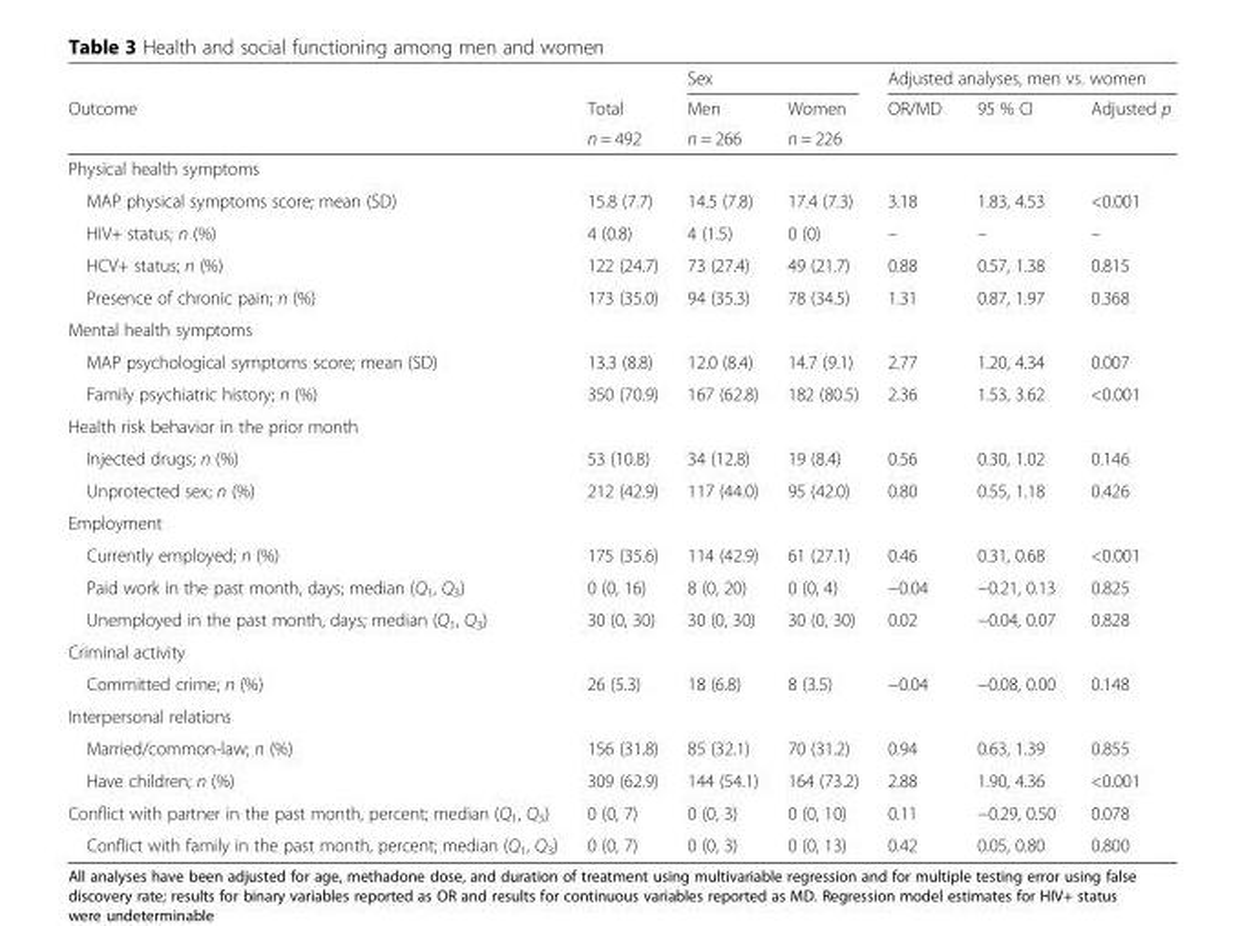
<table><thead><tr><td rowspan="3">Outcome</td><td rowspan="3">Total n = 492</td><td colspan="2">Sex</td><td colspan="3">Adjusted analyses, men vs. women</td></tr><tr><td rowspan="2">Men n = 266</td><td rowspan="2">Women n = 226</td><td rowspan="2">OR/MD</td><td rowspan="2">95 % CI</td><td rowspan="2">Adjusted p</td></tr><tr></tr></thead><tbody><tr><td colspan="7">Physical health symptoms</td></tr><tr><td>MAP physical symptoms score; mean (SD)</td><td>15.8 (7.7)</td><td>14.5 (7.8)</td><td>17.4 (7.3)</td><td>3.18</td><td>1.83, 4.53</td><td>&lt;0.001</td></tr><tr><td>HIV+ status; n (%)</td><td>4 (0.8)</td><td>4 (1.5)</td><td>0 (0)</td><td>–</td><td>–</td><td>–</td></tr><tr><td>HCV+ status; n (%)</td><td>122 (24.7)</td><td>73 (27.4)</td><td>49 (21.7)</td><td>0.88</td><td>0.57, 1.38</td><td>0.815</td></tr><tr><td>Presence of chronic pain; n (%)</td><td>173 (35.0)</td><td>94 (35.3)</td><td>78 (34.5)</td><td>1.31</td><td>0.87, 1.97</td><td>0.368</td></tr><tr><td colspan="7">Mental health symptoms</td></tr><tr><td>MAP psychological symptoms score; mean (SD)</td><td>13.3 (8.8)</td><td>12.0 (8.4)</td><td>14.7 (9.1)</td><td>2.77</td><td>1.20, 4.34</td><td>0.007</td></tr><tr><td>Family psychiatric history; n (%)</td><td>350 (70.9)</td><td>167 (62.8)</td><td>182 (80.5)</td><td>2.36</td><td>1.53, 3.62</td><td>&lt;0.001</td></tr><tr><td colspan="7">Health risk behavior in the prior month</td></tr><tr><td>Injected drugs; n (%)</td><td>53 (10.8)</td><td>34 (12.8)</td><td>19 (8.4)</td><td>0.56</td><td>0.30, 1.02</td><td>0.146</td></tr><tr><td>Unprotected sex; n (%)</td><td>212 (42.9)</td><td>117 (44.0)</td><td>95 (42.0)</td><td>0.80</td><td>0.55, 1.18</td><td>0.426</td></tr><tr><td colspan="7">Employment</td></tr><tr><td>Currently employed; n (%)</td><td>175 (35.6)</td><td>114 (42.9)</td><td>61 (27.1)</td><td>0.46</td><td>0.31, 0.68</td><td>&lt;0.001</td></tr><tr><td>Paid work in the past month, days; median (Q<sub>1</sub>, Q<sub>3</sub>)</td><td>0 (0, 16)</td><td>8 (0, 20)</td><td>0 (0, 4)</td><td>−0.04</td><td>−0.21, 0.13</td><td>0.825</td></tr><tr><td>Unemployed in the past month, days; median (Q<sub>1</sub>, Q<sub>3</sub>)</td><td>30 (0, 30)</td><td>30 (0, 30)</td><td>30 (0, 30)</td><td>0.02</td><td>−0.04, 0.07</td><td>0.828</td></tr><tr><td colspan="7">Criminal activity</td></tr><tr><td>Committed crime; n (%)</td><td>26 (5.3)</td><td>18 (6.8)</td><td>8 (3.5)</td><td>−0.04</td><td>−0.08, 0.00</td><td>0.148</td></tr><tr><td colspan="7">Interpersonal relations</td></tr><tr><td>Married/common-law; n (%)</td><td>156 (31.8)</td><td>85 (32.1)</td><td>70 (31.2)</td><td>0.94</td><td>0.63, 1.39</td><td>0.855</td></tr><tr><td>Have children; n (%)</td><td>309 (62.9)</td><td>144 (54.1)</td><td>164 (73.2)</td><td>2.88</td><td>1.90, 4.36</td><td>&lt;0.001</td></tr><tr><td>Conflict with partner in the past month, percent; median (Q<sub>1</sub>, Q<sub>3</sub>)</td><td>0 (0, 7)</td><td>0 (0, 3)</td><td>0 (0, 10)</td><td>0.11</td><td>−0.29, 0.50</td><td>0.078</td></tr><tr><td>Conflict with family in the past month, percent; median (Q<sub>1</sub>, Q<sub>3</sub>)</td><td>0 (0, 7)</td><td>0 (0, 3)</td><td>0 (0, 13)</td><td>0.42</td><td>0.05, 0.80</td><td>0.800</td></tr></tbody></table>